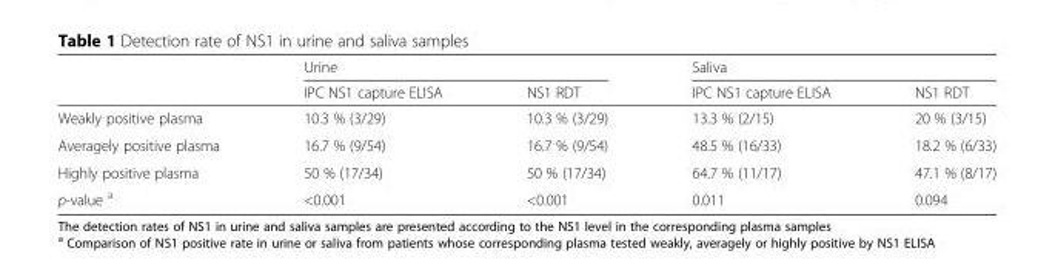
<table><thead><tr><td rowspan="2"></td><td colspan="2">Urine</td><td colspan="2">Saliva</td></tr><tr><td>IPC NS1 capture ELISA</td><td>NS1 RDT</td><td>IPC NS1 capture ELISA</td><td>NS1 RDT</td></tr></thead><tbody><tr><td>Weakly positive plasma</td><td>10.3 % (3/29)</td><td>10.3 % (3/29)</td><td>13.3 % (2/15)</td><td>20 % (3/15)</td></tr><tr><td>Averagely positive plasma</td><td>16.7 % (9/54)</td><td>16.7 % (9/54)</td><td>48.5 % (16/33)</td><td>18.2 % (6/33)</td></tr><tr><td>Highly positive plasma</td><td>50 % (17/34)</td><td>50 % (17/34)</td><td>64.7 % (11/17)</td><td>47.1 % (8/17)</td></tr><tr><td>p-value <sup>a</sup></td><td>&lt;0.001</td><td>&lt;0.001</td><td>0.011</td><td>0.094</td></tr></tbody></table>